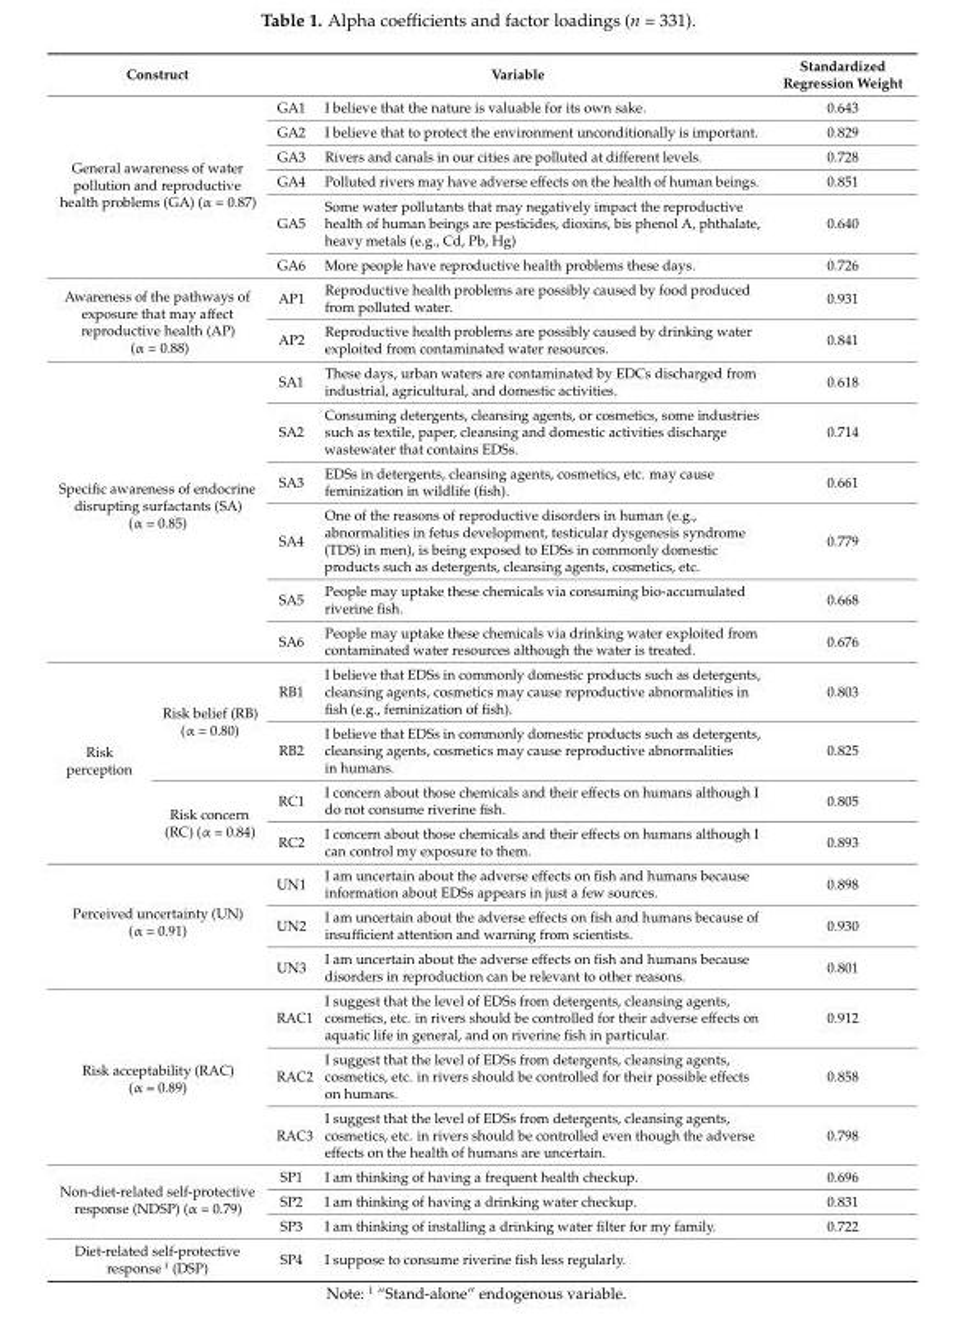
<table><thead><tr><td colspan="2">Construct</td><td colspan="2">Variable</td><td>Standardized Regression Weight</td></tr></thead><tbody><tr><td rowspan="6" colspan="2">General awareness of water pollution and reproductive health problems (GA) (α = 0.87)</td><td>GA1</td><td>I believe that the nature is valuable for its own sake.</td><td>0.643</td></tr><tr><td>GA2</td><td>I believe that to protect the environment unconditionally is important.</td><td>0.829</td></tr><tr><td>GA3</td><td>Rivers and canals in our cities are polluted at different levels.</td><td>0.728</td></tr><tr><td>GA4</td><td>Polluted rivers may have adverse effects on the health of human beings.</td><td>0.851</td></tr><tr><td>GA5</td><td>Some water pollutants that may negatively impact the reproductive health of human beings are pesticides, dioxins, bis phenol A, phthalate, heavy metals (e.g., Cd, Pb, Hg)</td><td>0.640</td></tr><tr><td>GA6</td><td>More people have reproductive health problems these days.</td><td>0.726</td></tr><tr><td rowspan="2" colspan="2">Awareness of the pathways of exposure that may affect reproductive health (AP) (α = 0.88)</td><td>AP1</td><td>Reproductive health problems are possibly caused by food produced from polluted water.</td><td>0.931</td></tr><tr><td>AP2</td><td>Reproductive health problems are possibly caused by drinking water exploited from contaminated water resources.</td><td>0.841</td></tr><tr><td rowspan="6" colspan="2">Specific awareness of endocrine disrupting surfactants (SA) (α = 0.85)</td><td>SA1</td><td>These days, urban waters are contaminated by EDCs discharged from industrial, agricultural, and domestic activities.</td><td>0.618</td></tr><tr><td>SA2</td><td>Consuming detergents, cleansing agents, or cosmetics, some industries such as textile, paper, cleansing and domestic activities discharge wastewater that contains EDSs.</td><td>0.714</td></tr><tr><td>SA3</td><td>EDSs in detergents, cleansing agents, cosmetics, etc. may cause feminization in wildlife (fish).</td><td>0.661</td></tr><tr><td>SA4</td><td>One of the reasons of reproductive disorders in human (e.g., abnormalities in fetus development, testicular dysgenesis syndrome (TDS) in men), is being exposed to EDSs in commonly domestic products such as detergents, cleansing agents, cosmetics, etc.</td><td>0.779</td></tr><tr><td>SA5</td><td>People may uptake these chemicals via consuming bio-accumulated riverine fish.</td><td>0.668</td></tr><tr><td>SA6</td><td>People may uptake these chemicals via drinking water exploited from contaminated water resources although the water is treated.</td><td>0.676</td></tr><tr><td rowspan="4">Risk perception</td><td rowspan="2">Risk belief (RB) (α = 0.80)</td><td>RB1</td><td>I believe that EDSs in commonly domestic products such as detergents, cleansing agents, cosmetics may cause reproductive abnormalities in fish (e.g., feminization of fish).</td><td>0.803</td></tr><tr><td>RB2</td><td>I believe that EDSs in commonly domestic products such as detergents, cleansing agents, cosmetics may cause reproductive abnormalities in humans.</td><td>0.825</td></tr><tr><td rowspan="2">Risk concern (RC) (α = 0.84)</td><td>RC1</td><td>I concern about those chemicals and their effects on humans although I do not consume riverine fish.</td><td>0.805</td></tr><tr><td>RC2</td><td>I concern about those chemicals and their effects on humans although I can control my exposure to them.</td><td>0.893</td></tr><tr><td rowspan="3" colspan="2">Perceived uncertainty (UN) (α = 0.91)</td><td>UN1</td><td>I am uncertain about the adverse effects on fish and humans because information about EDSs appears in just a few sources.</td><td>0.898</td></tr><tr><td>UN2</td><td>I am uncertain about the adverse effects on fish and humans because of insufficient attention and warning from scientists.</td><td>0.930</td></tr><tr><td>UN3</td><td>I am uncertain about the adverse effects on fish and humans because disorders in reproduction can be relevant to other reasons.</td><td>0.801</td></tr><tr><td rowspan="3" colspan="2">Risk acceptability (RAC) (α = 0.89)</td><td>RAC1</td><td>I suggest that the level of EDSs from detergents, cleansing agents, cosmetics, etc. in rivers should be controlled for their adverse effects on aquatic life in general, and on riverine fish in particular.</td><td>0.912</td></tr><tr><td>RAC2</td><td>I suggest that the level of EDSs from detergents, cleansing agents, cosmetics, etc. in rivers should be controlled for their possible effects on humans.</td><td>0.858</td></tr><tr><td>RAC3</td><td>I suggest that the level of EDSs from detergents, cleansing agents, cosmetics, etc. in rivers should be controlled even though the adverse effects on the health of humans are uncertain.</td><td>0.798</td></tr><tr><td rowspan="3" colspan="2">Non-diet-related self-protective response (NDSP) (α = 0.79)</td><td>SP1</td><td>I am thinking of having a frequent health checkup.</td><td>0.696</td></tr><tr><td>SP2</td><td>I am thinking of having a drinking water checkup.</td><td>0.831</td></tr><tr><td>SP3</td><td>I am thinking of installing a drinking water filter for my family.</td><td>0.722</td></tr><tr><td colspan="2">Diet-related self-protective response <sup>i</sup> (DSP)</td><td>SP4</td><td>I suppose to consume riverine fish less regularly.</td><td></td></tr></tbody></table>